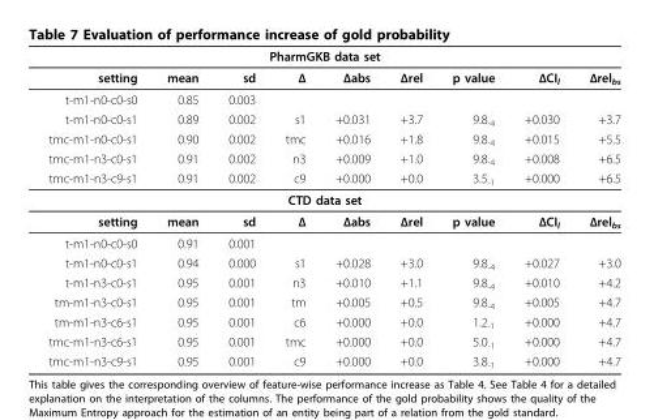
<table><thead><tr><td colspan="9">PharmGKB data set</td></tr><tr><td>setting</td><td>mean</td><td>sd</td><td>Δ</td><td>Δabs</td><td>Δrel</td><td>p value</td><td>ΔCI<sub>l</sub></td><td>Δrel<sub>bs</sub></td></tr></thead><tbody><tr><td>t-m1-n0-c0-s0</td><td>0.85</td><td>0.003</td><td></td><td></td><td></td><td></td><td></td><td></td></tr><tr><td>t-m1-n0-c0-s1</td><td>0.89</td><td>0.002</td><td>s1</td><td>+0.031</td><td>+3.7</td><td>9.8<sub>-4</sub></td><td>+0.030</td><td>+3.7</td></tr><tr><td>tmc-m1-n0-c0-s1</td><td>0.90</td><td>0.002</td><td>tmc</td><td>+0.016</td><td>+1.8</td><td>9.8<sub>-4</sub></td><td>+0.015</td><td>+5.5</td></tr><tr><td>tmc-m1-n3-c0-s1</td><td>0.91</td><td>0.002</td><td>n3</td><td>+0.009</td><td>+1.0</td><td>9.8<sub>-4</sub></td><td>+0.008</td><td>+6.5</td></tr><tr><td>tmc-m1-n3-c9-s1</td><td>0.91</td><td>0.002</td><td>c9</td><td>+0.000</td><td>+0.0</td><td>3.5<sub>-1</sub></td><td>+0.000</td><td>+6.5</td></tr><tr><td colspan="9">CTD data set</td></tr><tr><td>setting</td><td>mean</td><td>sd</td><td>Δ</td><td>Δabs</td><td>Δrel</td><td>p value</td><td>ΔCI<sub>l</sub></td><td>Δrel<sub>bs</sub></td></tr><tr><td>t-m1-n0-c0-s0</td><td>0.91</td><td>0.001</td><td></td><td></td><td></td><td></td><td></td><td></td></tr><tr><td>t-m1-n0-c0-s1</td><td>0.94</td><td>0.000</td><td>s1</td><td>+0.028</td><td>+3.0</td><td>9.8<sub>-4</sub></td><td>+0.027</td><td>+3.0</td></tr><tr><td>t-m1-n3-c0-s1</td><td>0.95</td><td>0.001</td><td>n3</td><td>+0.010</td><td>+1.1</td><td>9.8<sub>-4</sub></td><td>+0.010</td><td>+4.2</td></tr><tr><td>tm-m1-n3-c0-s1</td><td>0.95</td><td>0.001</td><td>tm</td><td>+0.005</td><td>+0.5</td><td>9.8<sub>-4</sub></td><td>+0.005</td><td>+4.7</td></tr><tr><td>tm-m1-n3-c6-s1</td><td>0.95</td><td>0.001</td><td>c6</td><td>+0.000</td><td>+0.0</td><td>1.2<sub>-1</sub></td><td>+0.000</td><td>+4.7</td></tr><tr><td>tmc-m1-n3-c6-s1</td><td>0.95</td><td>0.001</td><td>tmc</td><td>+0.000</td><td>+0.0</td><td>5.0<sub>-1</sub></td><td>+0.000</td><td>+4.7</td></tr><tr><td>tmc-m1-n3-c9-s1</td><td>0.95</td><td>0.001</td><td>c9</td><td>+0.000</td><td>+0.0</td><td>3.8<sub>-1</sub></td><td>+0.000</td><td>+4.7</td></tr></tbody></table>